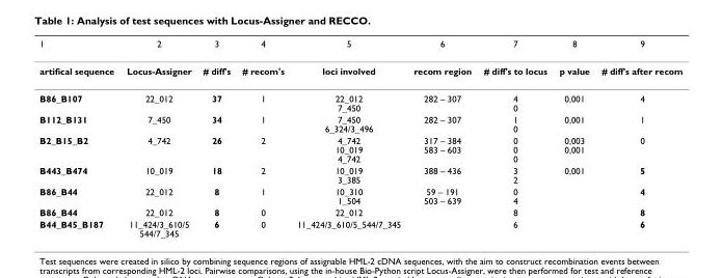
<table><thead><tr><td>1</td><td>2</td><td>3</td><td>4</td><td>5</td><td>6</td><td>7</td><td>8</td><td>9</td></tr></thead><tbody><tr><td>artifical sequence</td><td>Locus-Assigner</td><td># diff&#x27;s</td><td># recom&#x27;s</td><td>loci involved</td><td>recom region</td><td># diff&#x27;s to locus</td><td>p value</td><td># diff&#x27;s after recom</td></tr><tr><td>B86_B107</td><td>22_012</td><td>37</td><td>1</td><td>22_012 7_450</td><td>282 – 307</td><td>4 0</td><td>0,001</td><td>4</td></tr><tr><td>B112_B131</td><td>7_450</td><td>34</td><td>1</td><td>7_450 6_324/3_496</td><td>282 – 307</td><td>1 0</td><td>0,001</td><td>1</td></tr><tr><td>B2_B15_B2</td><td>4_742</td><td>26</td><td>2</td><td>4_742 10_019 4_742</td><td>317 – 384 583 – 603</td><td>0 0 0</td><td>0,003 0,001</td><td>0</td></tr><tr><td>B443_B474</td><td>10_019</td><td>18</td><td>2</td><td>10_019 3_385</td><td>388 – 436</td><td>3 2</td><td>0,001</td><td>5</td></tr><tr><td>B86_B44</td><td>22_012</td><td>8</td><td>1</td><td>10_310 1_504</td><td>59 – 191 503 – 639</td><td>0 4</td><td></td><td>4</td></tr><tr><td>B86_B44</td><td>22_012</td><td>8</td><td>0</td><td>22_012</td><td></td><td>8</td><td></td><td>8</td></tr><tr><td>B44_B45_B187</td><td>11_424/3_610/5 544/7_345</td><td>6</td><td>0</td><td>11_424/3_610/5_544/7_345</td><td></td><td>6</td><td></td><td>6</td></tr></tbody></table>